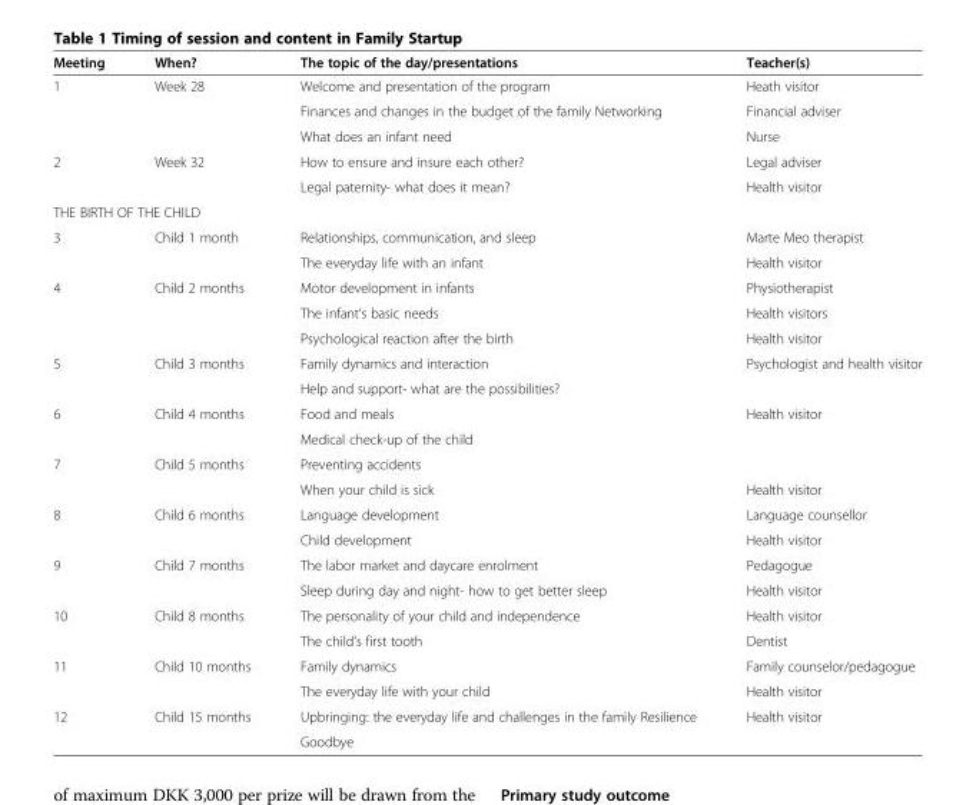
<table><thead><tr><td>Meeting</td><td>When?</td><td>The topic of the day/presentations</td><td>Teacher(s)</td></tr></thead><tbody><tr><td rowspan="3">1</td><td rowspan="3">Week 28</td><td>Welcome and presentation of the program</td><td>Heath visitor</td></tr><tr><td>Finances and changes in the budget of the family Networking</td><td>Financial adviser</td></tr><tr><td>What does an infant need</td><td>Nurse</td></tr><tr><td rowspan="2">2</td><td rowspan="2">Week 32</td><td>How to ensure and insure each other?</td><td>Legal adviser</td></tr><tr><td>Legal paternity- what does it mean?</td><td>Health visitor</td></tr><tr><td colspan="4">THE BIRTH OF THE CHILD</td></tr><tr><td rowspan="2">3</td><td rowspan="2">Child 1 month</td><td>Relationships, communication, and sleep</td><td>Marte Meo therapist</td></tr><tr><td>The everyday life with an infant</td><td>Health visitor</td></tr><tr><td rowspan="3">4</td><td rowspan="3">Child 2 months</td><td>Motor development in infants</td><td>Physiotherapist</td></tr><tr><td>The infant’s basic needs</td><td>Health visitors</td></tr><tr><td>Psychological reaction after the birth</td><td>Health visitor</td></tr><tr><td rowspan="2">5</td><td rowspan="2">Child 3 months</td><td>Family dynamics and interaction</td><td>Psychologist and health visitor</td></tr><tr><td>Help and support- what are the possibilities?</td><td></td></tr><tr><td rowspan="2">6</td><td rowspan="2">Child 4 months</td><td>Food and meals</td><td rowspan="2">Health visitor</td></tr><tr><td>Medical check-up of the child</td></tr><tr><td rowspan="2">7</td><td rowspan="2">Child 5 months</td><td>Preventing accidents</td><td></td></tr><tr><td>When your child is sick</td><td>Health visitor</td></tr><tr><td rowspan="2">8</td><td rowspan="2">Child 6 months</td><td>Language development</td><td>Language counsellor</td></tr><tr><td>Child development</td><td>Health visitor</td></tr><tr><td rowspan="2">9</td><td rowspan="2">Child 7 months</td><td>The labor market and daycare enrolment</td><td>Pedagogue</td></tr><tr><td>Sleep during day and night- how to get better sleep</td><td>Health visitor</td></tr><tr><td rowspan="2">10</td><td rowspan="2">Child 8 months</td><td>The personality of your child and independence</td><td>Health visitor</td></tr><tr><td>The child’s first tooth</td><td>Dentist</td></tr><tr><td rowspan="2">11</td><td rowspan="2">Child 10 months</td><td>Family dynamics</td><td>Family counselor/pedagogue</td></tr><tr><td>The everyday life with your child</td><td>Health visitor</td></tr><tr><td rowspan="2">12</td><td rowspan="2">Child 15 months</td><td>Upbringing: the everyday life and challenges in the family Resilience</td><td rowspan="2">Health visitor</td></tr><tr><td>Goodbye</td></tr></tbody></table>